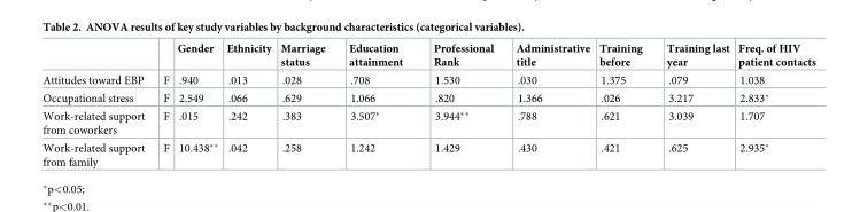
<table><thead><tr><td></td><td></td><td>Gender</td><td>Ethnicity</td><td>Marriage status</td><td>Education attainment</td><td>Professional Rank</td><td>Administrative title</td><td>Training before</td><td>Training last year</td><td>Freq. of HIV patient contacts</td></tr></thead><tbody><tr><td>Attitudes toward EBP</td><td>F</td><td>.940</td><td>.013</td><td>.028</td><td>.708</td><td>1.530</td><td>.030</td><td>1.375</td><td>.079</td><td>1.038</td></tr><tr><td>Occupational stress</td><td>F</td><td>2.549</td><td>.066</td><td>.629</td><td>1.066</td><td>.820</td><td>1.366</td><td>.026</td><td>3.217</td><td>2.833*</td></tr><tr><td>Work-related support from coworkers</td><td>F</td><td>.015</td><td>.242</td><td>.383</td><td>3.507*</td><td>3.944**</td><td>.788</td><td>.621</td><td>3.039</td><td>1.707</td></tr><tr><td>Work-related support from family</td><td>F</td><td>10.438**</td><td>.042</td><td>.258</td><td>1.242</td><td>1.429</td><td>.430</td><td>.421</td><td>.625</td><td>2.935*</td></tr></tbody></table>